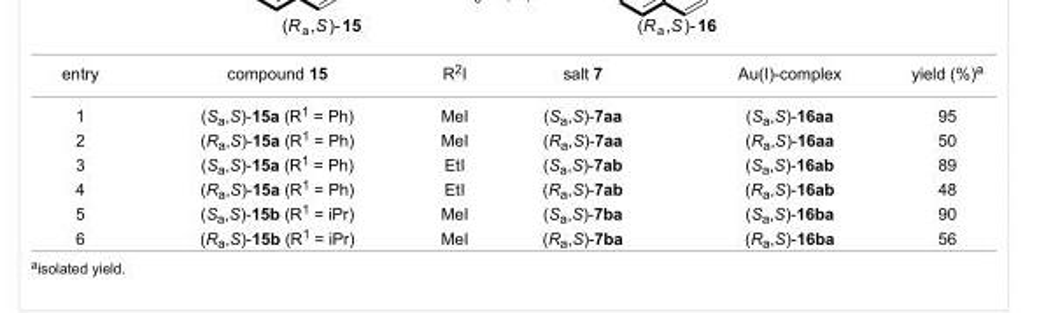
<table><tbody><tr><td>entry</td><td>compound 15</td><td>R<sup>2</sup>I</td><td>salt 7</td><td>Au(I)-complex</td><td>yield (%)<sup>a</sup></td></tr><tr><td>1</td><td>(S<sub>a</sub>,S)-15a (R<sup>1</sup> = Ph)</td><td>MeI</td><td>(S<sub>a</sub>,S)-7aa</td><td>(S<sub>a</sub>,S)-16aa</td><td>95</td></tr><tr><td>2</td><td>(R<sub>a</sub>,S)-15a (R<sup>1</sup> = Ph)</td><td>MeI</td><td>(R<sub>a</sub>,S)-7aa</td><td>(R<sub>a</sub>,S)-16aa</td><td>50</td></tr><tr><td>3</td><td>(S<sub>a</sub>,S)-15a (R<sup>1</sup> = Ph)</td><td>EtI</td><td>(S<sub>a</sub>,S)-7ab</td><td>(S<sub>a</sub>,S)-16ab</td><td>89</td></tr><tr><td>4</td><td>(R<sub>a</sub>,S)-15a (R<sup>1</sup> = Ph)</td><td>EtI</td><td>(R<sub>a</sub>,S)-7ab</td><td>(R<sub>a</sub>,S)-16ab</td><td>48</td></tr><tr><td>5</td><td>(S<sub>a</sub>,S)-15b (R<sup>1</sup> = iPr)</td><td>MeI</td><td>(S<sub>a</sub>,S)-7ba</td><td>(S<sub>a</sub>,S)-16ba</td><td>90</td></tr><tr><td>6</td><td>(R<sub>a</sub>,S)-15b (R<sup>1</sup> = iPr)</td><td>MeI</td><td>(R<sub>a</sub>,S)-7ba</td><td>(R<sub>a</sub>,S)-16ba</td><td>56</td></tr></tbody></table>